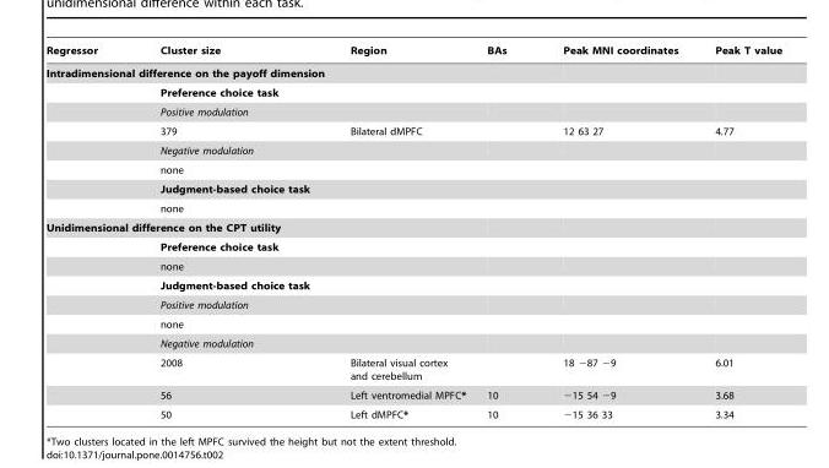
<table><thead><tr><td>Regressor</td><td>Cluster size</td><td>Region</td><td>BAs</td><td>Peak MNI coordinates</td><td>Peak T value</td></tr></thead><tbody><tr><td colspan="6">Intradimensional difference on the payoff dimension</td></tr><tr><td></td><td colspan="5">Preference choice task</td></tr><tr><td></td><td colspan="2">Positive modulation</td><td></td><td></td><td></td></tr><tr><td></td><td>379</td><td>Bilateral dMPFC</td><td></td><td>12 63 27</td><td>4.77</td></tr><tr><td></td><td colspan="2">Negative modulation</td><td></td><td></td><td></td></tr><tr><td></td><td>none</td><td></td><td></td><td></td><td></td></tr><tr><td></td><td colspan="5">Judgment-based choice task</td></tr><tr><td></td><td>none</td><td></td><td></td><td></td><td></td></tr><tr><td colspan="6">Unidimensional difference on the CPT utility</td></tr><tr><td></td><td colspan="5">Preference choice task</td></tr><tr><td></td><td>none</td><td></td><td></td><td></td><td></td></tr><tr><td></td><td colspan="5">Judgment-based choice task</td></tr><tr><td></td><td colspan="2">Positive modulation</td><td></td><td></td><td></td></tr><tr><td></td><td>none</td><td></td><td></td><td></td><td></td></tr><tr><td></td><td colspan="2">Negative modulation</td><td></td><td></td><td></td></tr><tr><td></td><td>2008</td><td>Bilateral visual cortex and cerebellum</td><td></td><td>18 −87 −9</td><td>6.01</td></tr><tr><td></td><td>56</td><td>Left ventromedial MPFC*</td><td>10</td><td>−15 54 −9</td><td>3.68</td></tr><tr><td></td><td>50</td><td>Left dMPFC*</td><td>10</td><td>−15 36 33</td><td>3.34</td></tr></tbody></table>